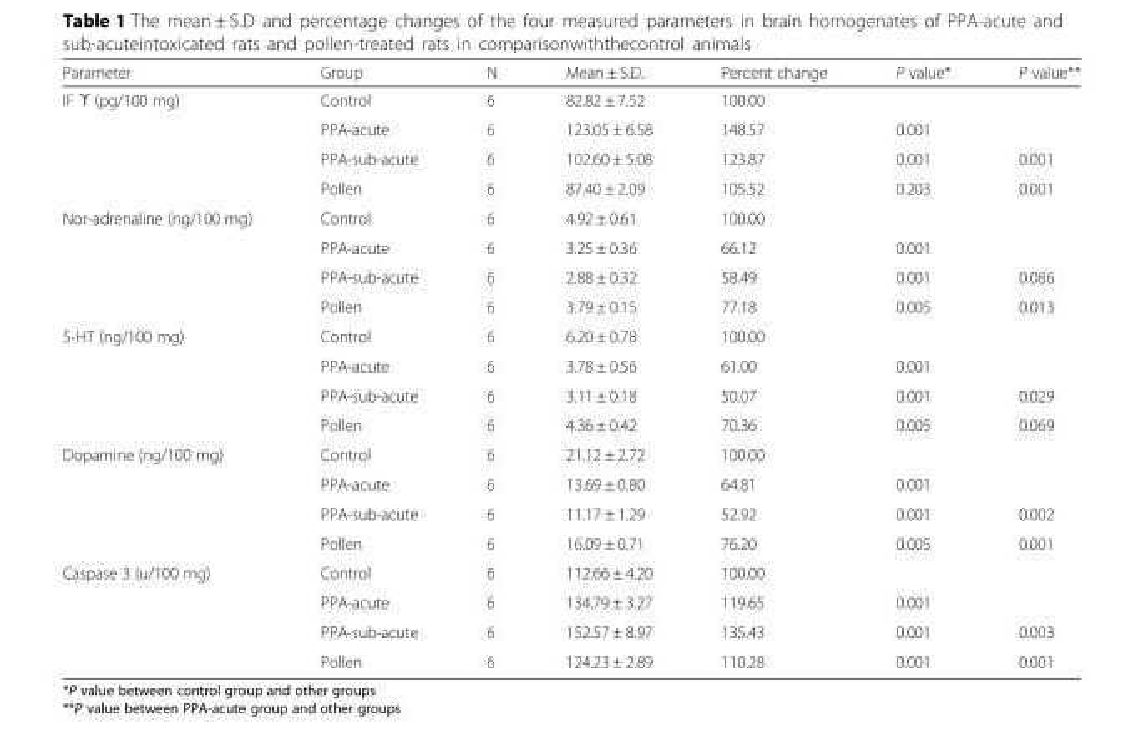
<table><thead><tr><td>Parameter</td><td>Group</td><td>N</td><td>Mean ± S.D.</td><td>Percent change</td><td>P value*</td><td>P value**</td></tr></thead><tbody><tr><td rowspan="4">IF ϒ (pg/100 mg)</td><td>Control</td><td>6</td><td>82.82 ± 7.52</td><td>100.00</td><td></td><td rowspan="2"></td></tr><tr><td>PPA-acute</td><td>6</td><td>123.05 ± 6.58</td><td>148.57</td><td>0.001</td></tr><tr><td>PPA-sub-acute</td><td>6</td><td>102.60 ± 5.08</td><td>123.87</td><td>0.001</td><td>0.001</td></tr><tr><td>Pollen</td><td>6</td><td>87.40 ± 2.09</td><td>105.52</td><td>0.203</td><td>0.001</td></tr><tr><td rowspan="4">Nor-adrenaline (ng/100 mg)</td><td>Control</td><td>6</td><td>4.92 ± 0.61</td><td>100.00</td><td></td><td rowspan="2"></td></tr><tr><td>PPA-acute</td><td>6</td><td>3.25 ± 0.36</td><td>66.12</td><td>0.001</td></tr><tr><td>PPA-sub-acute</td><td>6</td><td>2.88 ± 0.32</td><td>58.49</td><td>0.001</td><td>0.086</td></tr><tr><td>Pollen</td><td>6</td><td>3.79 ± 0.15</td><td>77.18</td><td>0.005</td><td>0.013</td></tr><tr><td rowspan="4">5-HT (ng/100 mg)</td><td>Control</td><td>6</td><td>6.20 ± 0.78</td><td>100.00</td><td></td><td rowspan="2"></td></tr><tr><td>PPA-acute</td><td>6</td><td>3.78 ± 0.56</td><td>61.00</td><td>0.001</td></tr><tr><td>PPA-sub-acute</td><td>6</td><td>3.11 ± 0.18</td><td>50.07</td><td>0.001</td><td>0.029</td></tr><tr><td>Pollen</td><td>6</td><td>4.36 ± 0.42</td><td>70.36</td><td>0.005</td><td>0.069</td></tr><tr><td rowspan="4">Dopamine (ng/100 mg)</td><td>Control</td><td>6</td><td>21.12 ± 2.72</td><td>100.00</td><td></td><td rowspan="2"></td></tr><tr><td>PPA-acute</td><td>6</td><td>13.69 ± 0.80</td><td>64.81</td><td>0.001</td></tr><tr><td>PPA-sub-acute</td><td>6</td><td>11.17 ± 1.29</td><td>52.92</td><td>0.001</td><td>0.002</td></tr><tr><td>Pollen</td><td>6</td><td>16.09 ± 0.71</td><td>76.20</td><td>0.005</td><td>0.001</td></tr><tr><td rowspan="4">Caspase 3 (u/100 mg)</td><td>Control</td><td>6</td><td>112.66 ± 4.20</td><td>100.00</td><td></td><td rowspan="2"></td></tr><tr><td>PPA-acute</td><td>6</td><td>134.79 ± 3.27</td><td>119.65</td><td>0.001</td></tr><tr><td>PPA-sub-acute</td><td>6</td><td>152.57 ± 8.97</td><td>135.43</td><td>0.001</td><td>0.003</td></tr><tr><td>Pollen</td><td>6</td><td>124.23 ± 2.89</td><td>110.28</td><td>0.001</td><td>0.001</td></tr></tbody></table>